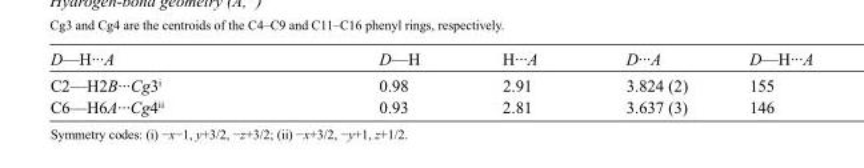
<table><tbody><tr><td>D—H···A</td><td>D—H</td><td>H···A</td><td>D···A</td><td>D—H···A</td></tr><tr><td>C2—H2B···Cg3<sup>i</sup></td><td>0.98</td><td>2.91</td><td>3.824 (2)</td><td>155</td></tr><tr><td>C6—H6A···Cg4<sup>ii</sup></td><td>0.93</td><td>2.81</td><td>3.637 (3)</td><td>146</td></tr></tbody></table>